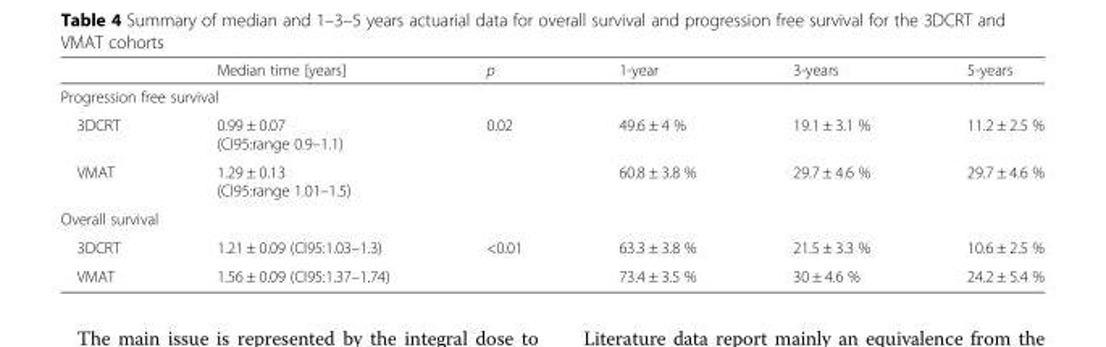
<table><thead><tr><td></td><td>Median time [years]</td><td>p</td><td>1-year</td><td>3-years</td><td>5-years</td></tr></thead><tbody><tr><td colspan="6">Progression free survival</td></tr><tr><td>3DCRT</td><td>0.99 ± 0.07 (CI95:range 0.9–1.1)</td><td rowspan="2">0.02</td><td>49.6 ± 4 %</td><td>19.1 ± 3.1 %</td><td>11.2 ± 2.5 %</td></tr><tr><td>VMAT</td><td>1.29 ± 0.13 (CI95:range 1.01–1.5)</td><td>60.8 ± 3.8 %</td><td>29.7 ± 4.6 %</td><td>29.7 ± 4.6 %</td></tr><tr><td colspan="6">Overall survival</td></tr><tr><td>3DCRT</td><td>1.21 ± 0.09 (CI95:1.03–1.3)</td><td rowspan="2">&lt;0.01</td><td>63.3 ± 3.8 %</td><td>21.5 ± 3.3 %</td><td>10.6 ± 2.5 %</td></tr><tr><td>VMAT</td><td>1.56 ± 0.09 (CI95:1.37–1.74)</td><td>73.4 ± 3.5 %</td><td>30 ± 4.6 %</td><td>24.2 ± 5.4 %</td></tr></tbody></table>